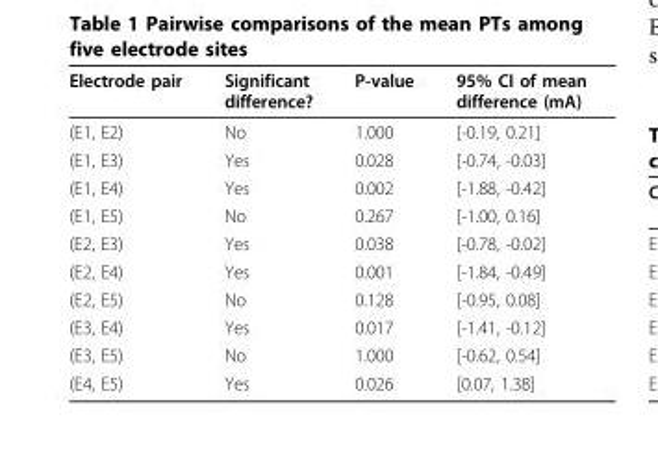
<table><thead><tr><td>Electrode pair</td><td>Significant difference?</td><td>P-value</td><td>95% CI of mean difference (mA)</td></tr></thead><tbody><tr><td>(E1, E2)</td><td>No</td><td>1.000</td><td>[-0.19, 0.21]</td></tr><tr><td>(E1, E3)</td><td>Yes</td><td>0.028</td><td>[-0.74, -0.03]</td></tr><tr><td>(E1, E4)</td><td>Yes</td><td>0.002</td><td>[-1.88, -0.42]</td></tr><tr><td>(E1, E5)</td><td>No</td><td>0.267</td><td>[-1.00, 0.16]</td></tr><tr><td>(E2, E3)</td><td>Yes</td><td>0.038</td><td>[-0.78, -0.02]</td></tr><tr><td>(E2, E4)</td><td>Yes</td><td>0.001</td><td>[-1.84, -0.49]</td></tr><tr><td>(E2, E5)</td><td>No</td><td>0.128</td><td>[-0.95, 0.08]</td></tr><tr><td>(E3, E4)</td><td>Yes</td><td>0.017</td><td>[-1.41, -0.12]</td></tr><tr><td>(E3, E5)</td><td>No</td><td>1.000</td><td>[-0.62, 0.54]</td></tr><tr><td>(E4, E5)</td><td>Yes</td><td>0.026</td><td>[0.07, 1.38]</td></tr></tbody></table>